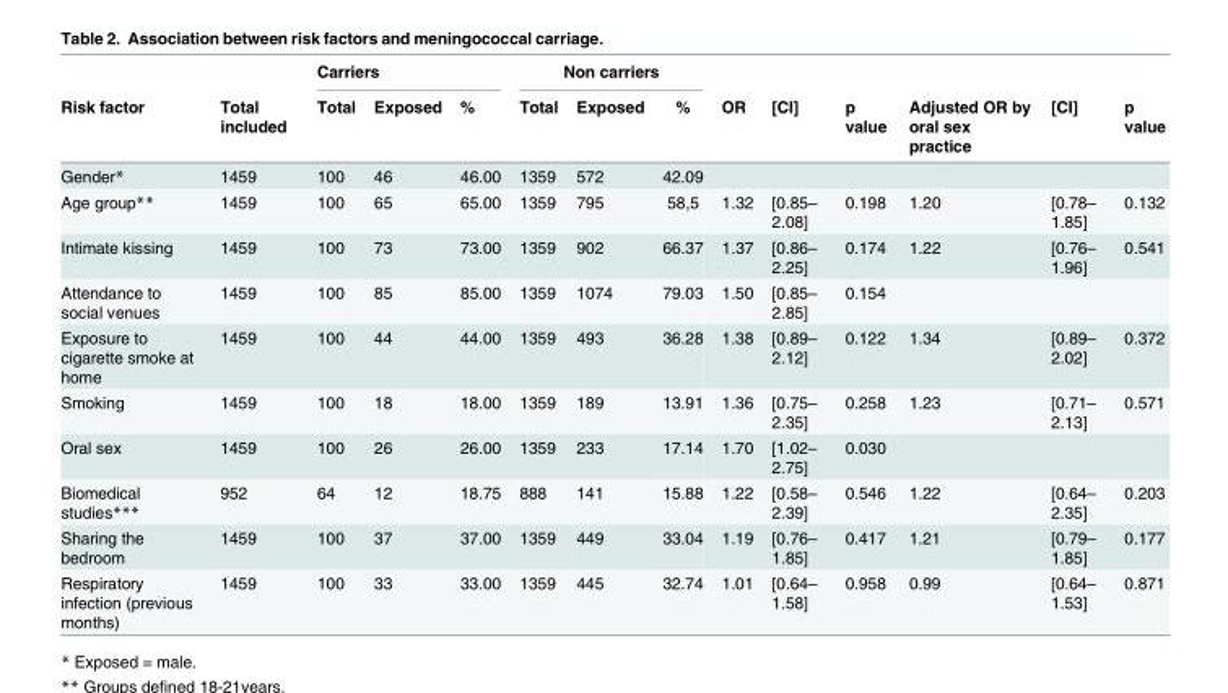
<table><thead><tr><td rowspan="2">Risk factor</td><td rowspan="2">Total included</td><td colspan="3">Carriers</td><td colspan="3">Non carriers</td><td rowspan="2">OR</td><td rowspan="2">[CI]</td><td rowspan="2">p value</td><td rowspan="2">Adjusted OR by oral sex practice</td><td rowspan="2">[CI]</td><td rowspan="2">p value</td></tr><tr><td>Total</td><td>Exposed</td><td>%</td><td>Total</td><td>Exposed</td><td>%</td></tr></thead><tbody><tr><td>Gender*</td><td>1459</td><td>100</td><td>46</td><td>46.00</td><td>1359</td><td>572</td><td>42.09</td><td></td><td></td><td></td><td></td><td></td><td></td></tr><tr><td>Age group**</td><td>1459</td><td>100</td><td>65</td><td>65.00</td><td>1359</td><td>795</td><td>58,5</td><td>1.32</td><td>[0.85– 2.08]</td><td>0.198</td><td>1.20</td><td>[0.78– 1.85]</td><td>0.132</td></tr><tr><td>Intimate kissing</td><td>1459</td><td>100</td><td>73</td><td>73.00</td><td>1359</td><td>902</td><td>66.37</td><td>1.37</td><td>[0.86– 2.25]</td><td>0.174</td><td>1.22</td><td>[0.76– 1.96]</td><td>0.541</td></tr><tr><td>Attendance to social venues</td><td>1459</td><td>100</td><td>85</td><td>85.00</td><td>1359</td><td>1074</td><td>79.03</td><td>1.50</td><td>[0.85– 2.85]</td><td>0.154</td><td></td><td></td><td></td></tr><tr><td>Exposure to cigarette smoke at home</td><td>1459</td><td>100</td><td>44</td><td>44.00</td><td>1359</td><td>493</td><td>36.28</td><td>1.38</td><td>[0.89– 2.12]</td><td>0.122</td><td>1.34</td><td>[0.89– 2.02]</td><td>0.372</td></tr><tr><td>Smoking</td><td>1459</td><td>100</td><td>18</td><td>18.00</td><td>1359</td><td>189</td><td>13.91</td><td>1.36</td><td>[0.75– 2.35]</td><td>0.258</td><td>1.23</td><td>[0.71– 2.13]</td><td>0.571</td></tr><tr><td>Oral sex</td><td>1459</td><td>100</td><td>26</td><td>26.00</td><td>1359</td><td>233</td><td>17.14</td><td>1.70</td><td>[1.02– 2.75]</td><td>0.030</td><td></td><td></td><td></td></tr><tr><td>Biomedical studies***</td><td>952</td><td>64</td><td>12</td><td>18.75</td><td>888</td><td>141</td><td>15.88</td><td>1.22</td><td>[0.58– 2.39]</td><td>0.546</td><td>1.22</td><td>[0.64– 2.35]</td><td>0.203</td></tr><tr><td>Sharing the bedroom</td><td>1459</td><td>100</td><td>37</td><td>37.00</td><td>1359</td><td>449</td><td>33.04</td><td>1.19</td><td>[0.76– 1.85]</td><td>0.417</td><td>1.21</td><td>[0.79– 1.85]</td><td>0.177</td></tr><tr><td>Respiratory infection (previous months)</td><td>1459</td><td>100</td><td>33</td><td>33.00</td><td>1359</td><td>445</td><td>32.74</td><td>1.01</td><td>[0.64– 1.58]</td><td>0.958</td><td>0.99</td><td>[0.64– 1.53]</td><td>0.871</td></tr></tbody></table>